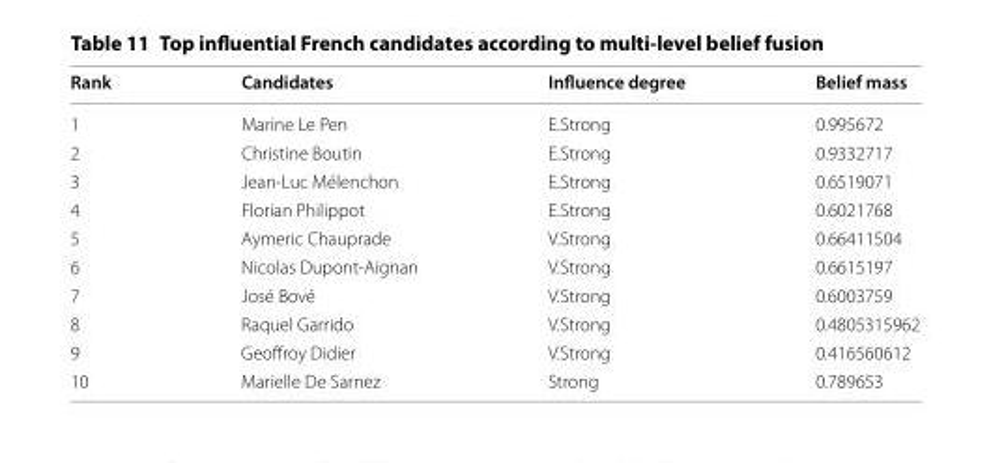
<table><thead><tr><td>Rank</td><td>Candidates</td><td>Influence degree</td><td>Belief mass</td></tr></thead><tbody><tr><td>1</td><td>Marine Le Pen</td><td>E.Strong</td><td>0.995672</td></tr><tr><td>2</td><td>Christine Boutin</td><td>E.Strong</td><td>0.9332717</td></tr><tr><td>3</td><td>Jean-Luc Mélenchon</td><td>E.Strong</td><td>0.6519071</td></tr><tr><td>4</td><td>Florian Philippot</td><td>E.Strong</td><td>0.6021768</td></tr><tr><td>5</td><td>Aymeric Chauprade</td><td>V.Strong</td><td>0.66411504</td></tr><tr><td>6</td><td>Nicolas Dupont-Aignan</td><td>V.Strong</td><td>0.6615197</td></tr><tr><td>7</td><td>José Bové</td><td>V.Strong</td><td>0.6003759</td></tr><tr><td>8</td><td>Raquel Garrido</td><td>V.Strong</td><td>0.4805315962</td></tr><tr><td>9</td><td>Geoffroy Didier</td><td>V.Strong</td><td>0.416560612</td></tr><tr><td>10</td><td>Marielle De Sarnez</td><td>Strong</td><td>0.789653</td></tr></tbody></table>